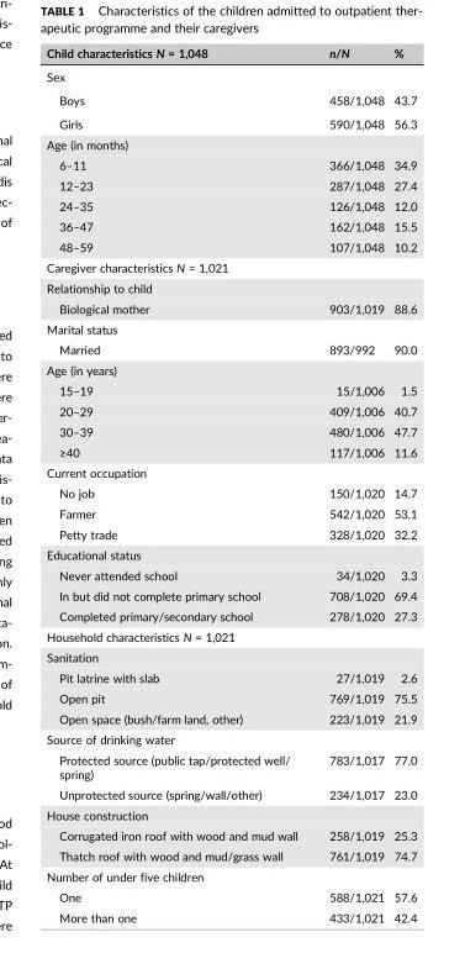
<table><thead><tr><td>Child characteristics N = 1,048</td><td>n/N</td><td>%</td></tr></thead><tbody><tr><td colspan="3">Sex</td></tr><tr><td>Boys</td><td>458/1,048</td><td>43.7</td></tr><tr><td>Girls</td><td>590/1,048</td><td>56.3</td></tr><tr><td colspan="3">Age (in months)</td></tr><tr><td>6–11</td><td>366/1,048</td><td>34.9</td></tr><tr><td>12–23</td><td>287/1,048</td><td>27.4</td></tr><tr><td>24–35</td><td>126/1,048</td><td>12.0</td></tr><tr><td>36–47</td><td>162/1,048</td><td>15.5</td></tr><tr><td>48–59</td><td>107/1,048</td><td>10.2</td></tr><tr><td colspan="3">Caregiver characteristics N = 1,021</td></tr><tr><td colspan="3">Relationship to child</td></tr><tr><td>Biological mother</td><td>903/1,019</td><td>88.6</td></tr><tr><td colspan="3">Marital status</td></tr><tr><td>Married</td><td>893/992</td><td>90.0</td></tr><tr><td colspan="3">Age (in years)</td></tr><tr><td>15–19</td><td>15/1,006</td><td>1.5</td></tr><tr><td>20–29</td><td>409/1,006</td><td>40.7</td></tr><tr><td>30–39</td><td>480/1,006</td><td>47.7</td></tr><tr><td>≥40</td><td>117/1,006</td><td>11.6</td></tr><tr><td colspan="3">Current occupation</td></tr><tr><td>No job</td><td>150/1,020</td><td>14.7</td></tr><tr><td>Farmer</td><td>542/1,020</td><td>53.1</td></tr><tr><td>Petty trade</td><td>328/1,020</td><td>32.2</td></tr><tr><td colspan="3">Educational status</td></tr><tr><td>Never attended school</td><td>34/1,020</td><td>3.3</td></tr><tr><td>In but did not complete primary school</td><td>708/1,020</td><td>69.4</td></tr><tr><td>Completed primary/secondary school</td><td>278/1,020</td><td>27.3</td></tr><tr><td colspan="3">Household characteristics N = 1,021</td></tr><tr><td colspan="3">Sanitation</td></tr><tr><td>Pit latrine with slab</td><td>27/1,019</td><td>2.6</td></tr><tr><td>Open pit</td><td>769/1,019</td><td>75.5</td></tr><tr><td>Open space (bush/farm land, other)</td><td>223/1,019</td><td>21.9</td></tr><tr><td colspan="3">Source of drinking water</td></tr><tr><td>Protected source (public tap/protected well/ spring)</td><td>783/1,017</td><td>77.0</td></tr><tr><td>Unprotected source (spring/wall/other)</td><td>234/1,017</td><td>23.0</td></tr><tr><td colspan="3">House construction</td></tr><tr><td>Corrugated iron roof with wood and mud wall</td><td>258/1,019</td><td>25.3</td></tr><tr><td>Thatch roof with wood and mud/grass wall</td><td>761/1,019</td><td>74.7</td></tr><tr><td colspan="3">Number of under five children</td></tr><tr><td>One</td><td>588/1,021</td><td>57.6</td></tr><tr><td>More than one</td><td>433/1,021</td><td>42.4</td></tr></tbody></table>